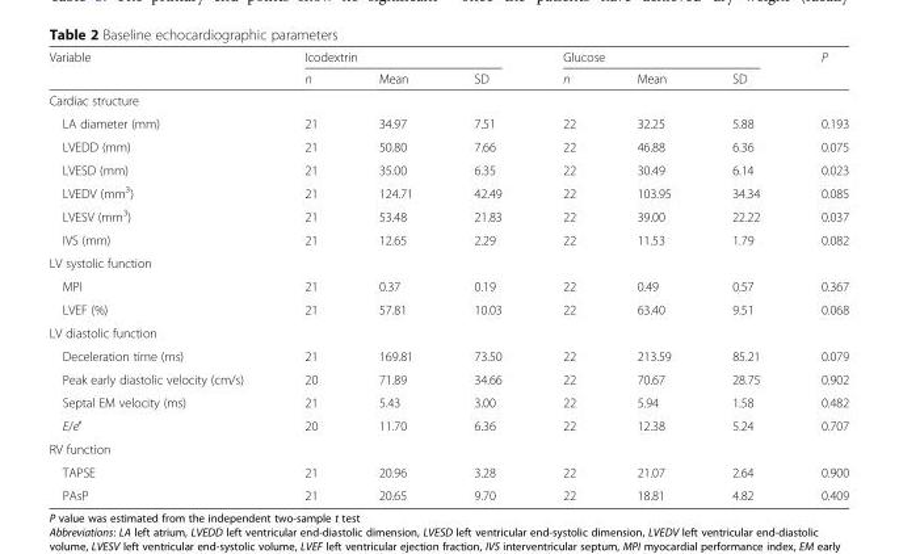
<table><thead><tr><td rowspan="2">Variable</td><td colspan="3">Icodextrin</td><td colspan="3">Glucose</td><td rowspan="2">P</td></tr><tr><td>n</td><td>Mean</td><td>SD</td><td>n</td><td>Mean</td><td>SD</td></tr></thead><tbody><tr><td colspan="8">Cardiac structure</td></tr><tr><td>LA diameter (mm)</td><td>21</td><td>34.97</td><td>7.51</td><td>22</td><td>32.25</td><td>5.88</td><td>0.193</td></tr><tr><td>LVEDD (mm)</td><td>21</td><td>50.80</td><td>7.66</td><td>22</td><td>46.88</td><td>6.36</td><td>0.075</td></tr><tr><td>LVESD (mm)</td><td>21</td><td>35.00</td><td>6.35</td><td>22</td><td>30.49</td><td>6.14</td><td>0.023</td></tr><tr><td>LVEDV (mm<sup>3</sup>)</td><td>21</td><td>124.71</td><td>42.49</td><td>22</td><td>103.95</td><td>34.34</td><td>0.085</td></tr><tr><td>LVESV (mm<sup>3</sup>)</td><td>21</td><td>53.48</td><td>21.83</td><td>22</td><td>39.00</td><td>22.22</td><td>0.037</td></tr><tr><td>IVS (mm)</td><td>21</td><td>12.65</td><td>2.29</td><td>22</td><td>11.53</td><td>1.79</td><td>0.082</td></tr><tr><td colspan="8">LV systolic function</td></tr><tr><td>MPI</td><td>21</td><td>0.37</td><td>0.19</td><td>22</td><td>0.49</td><td>0.57</td><td>0.367</td></tr><tr><td>LVEF (%)</td><td>21</td><td>57.81</td><td>10.03</td><td>22</td><td>63.40</td><td>9.51</td><td>0.068</td></tr><tr><td colspan="8">LV diastolic function</td></tr><tr><td>Deceleration time (ms)</td><td>21</td><td>169.81</td><td>73.50</td><td>22</td><td>213.59</td><td>85.21</td><td>0.079</td></tr><tr><td>Peak early diastolic velocity (cm/s)</td><td>20</td><td>71.89</td><td>34.66</td><td>22</td><td>70.67</td><td>28.75</td><td>0.902</td></tr><tr><td>Septal EM velocity (ms)</td><td>21</td><td>5.43</td><td>3.00</td><td>22</td><td>5.94</td><td>1.58</td><td>0.482</td></tr><tr><td>E/e′</td><td>20</td><td>11.70</td><td>6.36</td><td>22</td><td>12.38</td><td>5.24</td><td>0.707</td></tr><tr><td colspan="8">RV function</td></tr><tr><td>TAPSE</td><td>21</td><td>20.96</td><td>3.28</td><td>22</td><td>21.07</td><td>2.64</td><td>0.900</td></tr><tr><td>PAsP</td><td>21</td><td>20.65</td><td>9.70</td><td>22</td><td>18.81</td><td>4.82</td><td>0.409</td></tr></tbody></table>